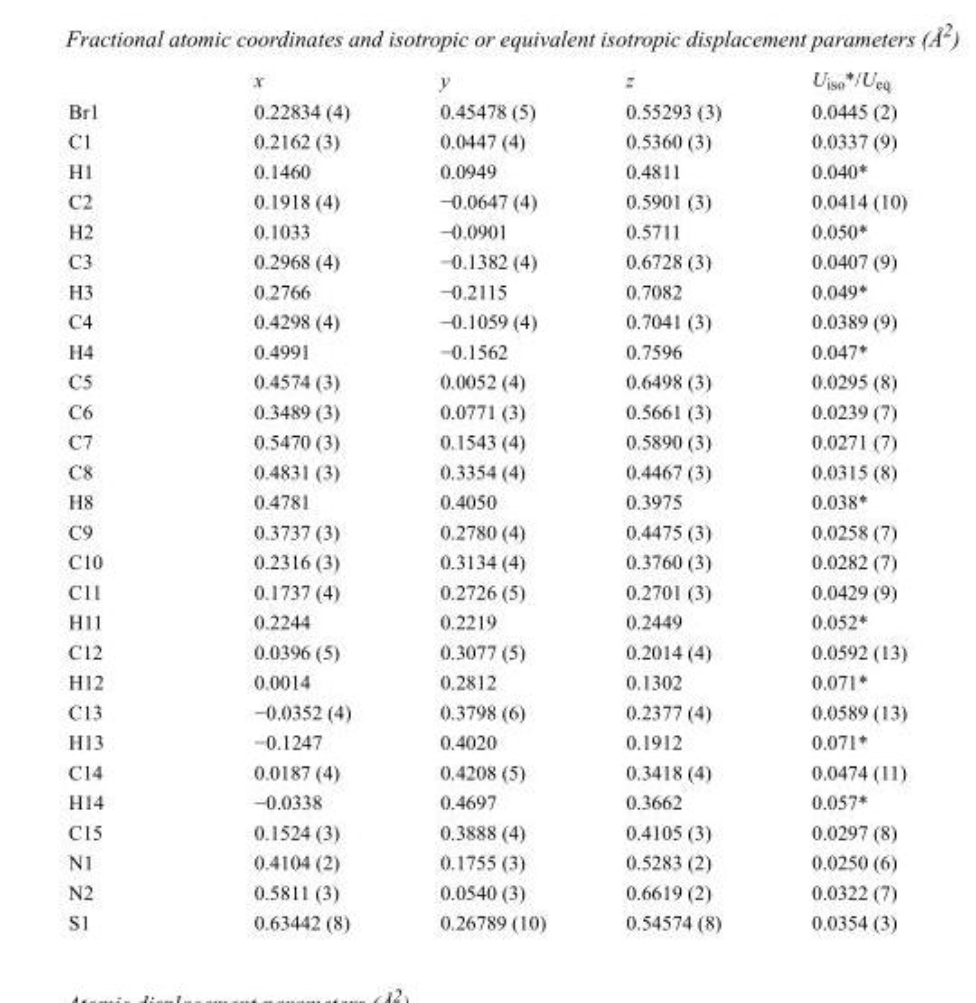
<table><thead><tr><td></td><td>x</td><td>y</td><td>z</td><td>U<sub>iso</sub>*/U<sub>eq</sub></td></tr></thead><tbody><tr><td>Br1</td><td>0.22834 (4)</td><td>0.45478 (5)</td><td>0.55293 (3)</td><td>0.0445 (2)</td></tr><tr><td>C1</td><td>0.2162 (3)</td><td>0.0447 (4)</td><td>0.5360 (3)</td><td>0.0337 (9)</td></tr><tr><td>H1</td><td>0.1460</td><td>0.0949</td><td>0.4811</td><td>0.040*</td></tr><tr><td>C2</td><td>0.1918 (4)</td><td>−0.0647 (4)</td><td>0.5901 (3)</td><td>0.0414 (10)</td></tr><tr><td>H2</td><td>0.1033</td><td>−0.0901</td><td>0.5711</td><td>0.050*</td></tr><tr><td>C3</td><td>0.2968 (4)</td><td>−0.1382 (4)</td><td>0.6728 (3)</td><td>0.0407 (9)</td></tr><tr><td>H3</td><td>0.2766</td><td>−0.2115</td><td>0.7082</td><td>0.049*</td></tr><tr><td>C4</td><td>0.4298 (4)</td><td>−0.1059 (4)</td><td>0.7041 (3)</td><td>0.0389 (9)</td></tr><tr><td>H4</td><td>0.4991</td><td>−0.1562</td><td>0.7596</td><td>0.047*</td></tr><tr><td>C5</td><td>0.4574 (3)</td><td>0.0052 (4)</td><td>0.6498 (3)</td><td>0.0295 (8)</td></tr><tr><td>C6</td><td>0.3489 (3)</td><td>0.0771 (3)</td><td>0.5661 (3)</td><td>0.0239 (7)</td></tr><tr><td>C7</td><td>0.5470 (3)</td><td>0.1543 (4)</td><td>0.5890 (3)</td><td>0.0271 (7)</td></tr><tr><td>C8</td><td>0.4831 (3)</td><td>0.3354 (4)</td><td>0.4467 (3)</td><td>0.0315 (8)</td></tr><tr><td>H8</td><td>0.4781</td><td>0.4050</td><td>0.3975</td><td>0.038*</td></tr><tr><td>C9</td><td>0.3737 (3)</td><td>0.2780 (4)</td><td>0.4475 (3)</td><td>0.0258 (7)</td></tr><tr><td>C10</td><td>0.2316 (3)</td><td>0.3134 (4)</td><td>0.3760 (3)</td><td>0.0282 (7)</td></tr><tr><td>C11</td><td>0.1737 (4)</td><td>0.2726 (5)</td><td>0.2701 (3)</td><td>0.0429 (9)</td></tr><tr><td>H11</td><td>0.2244</td><td>0.2219</td><td>0.2449</td><td>0.052*</td></tr><tr><td>C12</td><td>0.0396 (5)</td><td>0.3077 (5)</td><td>0.2014 (4)</td><td>0.0592 (13)</td></tr><tr><td>H12</td><td>0.0014</td><td>0.2812</td><td>0.1302</td><td>0.071*</td></tr><tr><td>C13</td><td>−0.0352 (4)</td><td>0.3798 (6)</td><td>0.2377 (4)</td><td>0.0589 (13)</td></tr><tr><td>H13</td><td>−0.1247</td><td>0.4020</td><td>0.1912</td><td>0.071*</td></tr><tr><td>C14</td><td>0.0187 (4)</td><td>0.4208 (5)</td><td>0.3418 (4)</td><td>0.0474 (11)</td></tr><tr><td>H14</td><td>−0.0338</td><td>0.4697</td><td>0.3662</td><td>0.057*</td></tr><tr><td>C15</td><td>0.1524 (3)</td><td>0.3888 (4)</td><td>0.4105 (3)</td><td>0.0297 (8)</td></tr><tr><td>N1</td><td>0.4104 (2)</td><td>0.1755 (3)</td><td>0.5283 (2)</td><td>0.0250 (6)</td></tr><tr><td>N2</td><td>0.5811 (3)</td><td>0.0540 (3)</td><td>0.6619 (2)</td><td>0.0322 (7)</td></tr><tr><td>S1</td><td>0.63442 (8)</td><td>0.26789 (10)</td><td>0.54574 (8)</td><td>0.0354 (3)</td></tr></tbody></table>